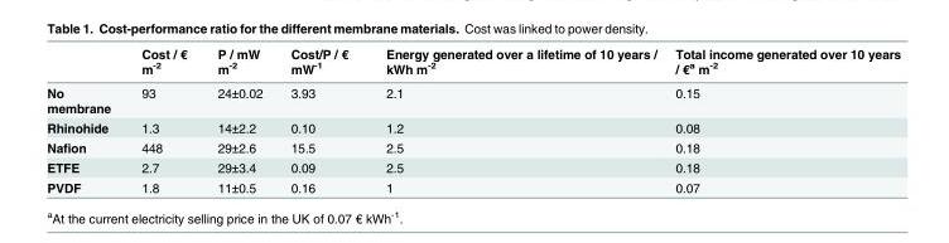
<table><thead><tr><td></td><td>Cost / € m<sup>-2</sup></td><td>P / mW m<sup>-2</sup></td><td>Cost/P / € mW<sup>-1</sup></td><td>Energy generated over a lifetime of 10 years / kWh m<sup>-2</sup></td><td>Total income generated over 10 years / €<sup>a</sup> m<sup>-2</sup></td></tr></thead><tbody><tr><td>No membrane</td><td>93</td><td>24±0.02</td><td>3.93</td><td>2.1</td><td>0.15</td></tr><tr><td>Rhinohide</td><td>1.3</td><td>14±2.2</td><td>0.10</td><td>1.2</td><td>0.08</td></tr><tr><td>Nafion</td><td>448</td><td>29±2.6</td><td>15.5</td><td>2.5</td><td>0.18</td></tr><tr><td>ETFE</td><td>2.7</td><td>29±3.4</td><td>0.09</td><td>2.5</td><td>0.18</td></tr><tr><td>PVDF</td><td>1.8</td><td>11±0.5</td><td>0.16</td><td>1</td><td>0.07</td></tr></tbody></table>